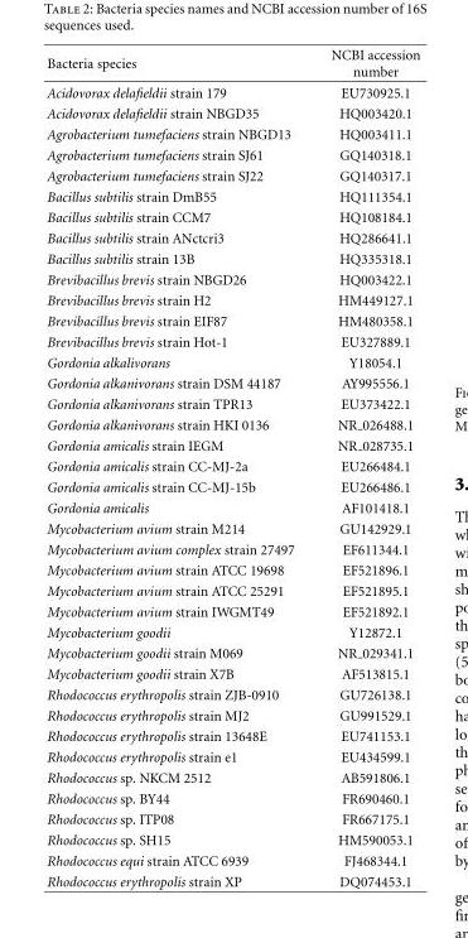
<table><thead><tr><td>Bacteria species</td><td>NCBI accession number</td></tr></thead><tbody><tr><td>Acidovorax delafieldii strain 179</td><td>EU730925.1</td></tr><tr><td>Acidovorax delafieldii strain NBGD35</td><td>HQ003420.1</td></tr><tr><td>Agrobacterium tumefaciens strain NBGD13</td><td>HQ003411.1</td></tr><tr><td>Agrobacterium tumefaciens strain SJ61</td><td>GQ140318.1</td></tr><tr><td>Agrobacterium tumefaciens strain SJ22</td><td>GQ140317.1</td></tr><tr><td>Bacillus subtilis strain DmB55</td><td>HQ111354.1</td></tr><tr><td>Bacillus subtilis strain CCM7</td><td>HQ108184.1</td></tr><tr><td>Bacillus subtilis strain ANctcri3</td><td>HQ286641.1</td></tr><tr><td>Bacillus subtilis strain 13B</td><td>HQ335318.1</td></tr><tr><td>Brevibacillus brevis strain NBGD26</td><td>HQ003422.1</td></tr><tr><td>Brevibacillus brevis strain H2</td><td>HM449127.1</td></tr><tr><td>Brevibacillus brevis strain EIF87</td><td>HM480358.1</td></tr><tr><td>Brevibacillus brevis strain Hot-1</td><td>EU327889.1</td></tr><tr><td>Gordonia alkalivorans</td><td>Y18054.1</td></tr><tr><td>Gordonia alkanivorans strain DSM 44187</td><td>AY995556.1</td></tr><tr><td>Gordonia alkanivorans strain TPR13</td><td>EU373422.1</td></tr><tr><td>Gordonia alkanivorans strain HKI 0136</td><td>NR 026488.1</td></tr><tr><td>Gordonia amicalis strain IEGM</td><td>NR 028735.1</td></tr><tr><td>Gordonia amicalis strain CC-MJ-2a</td><td>EU266484.1</td></tr><tr><td>Gordonia amicalis strain CC-MJ-15b</td><td>EU266486.1</td></tr><tr><td>Gordonia amicalis</td><td>AF101418.1</td></tr><tr><td>Mycobacterium avium strain M214</td><td>GU142929.1</td></tr><tr><td>Mycobacterium avium complex strain 27497</td><td>EF611344.1</td></tr><tr><td>Mycobacterium avium strain ATCC 19698</td><td>EF521896.1</td></tr><tr><td>Mycobacterium avium strain ATCC 25291</td><td>EF521895.1</td></tr><tr><td>Mycobacterium avium strain IWGMT49</td><td>EF521892.1</td></tr><tr><td>Mycobacterium goodii</td><td>Y12872.1</td></tr><tr><td>Mycobacterium goodii strain M069</td><td>NR 029341.1</td></tr><tr><td>Mycobacterium goodii strain X7B</td><td>AF513815.1</td></tr><tr><td>Rhodococcus erythropolis strain ZJB-0910</td><td>GU726138.1</td></tr><tr><td>Rhodococcus erythropolis strain MJ2</td><td>GU991529.1</td></tr><tr><td>Rhodococcus erythropolis strain 13648E</td><td>EU741153.1</td></tr><tr><td>Rhodococcus erythropolis strain e1</td><td>EU434599.1</td></tr><tr><td>Rhodococcus sp. NKCM 2512</td><td>AB591806.1</td></tr><tr><td>Rhodococcus sp. BY44</td><td>FR690460.1</td></tr><tr><td>Rhodococcus sp. ITP08</td><td>FR667175.1</td></tr><tr><td>Rhodococcus sp. SH15</td><td>HM590053.1</td></tr><tr><td>Rhodococcus equi strain ATCC 6939</td><td>FJ468344.1</td></tr><tr><td>Rhodococcus erythropolis strain XP</td><td>DQ074453.1</td></tr></tbody></table>